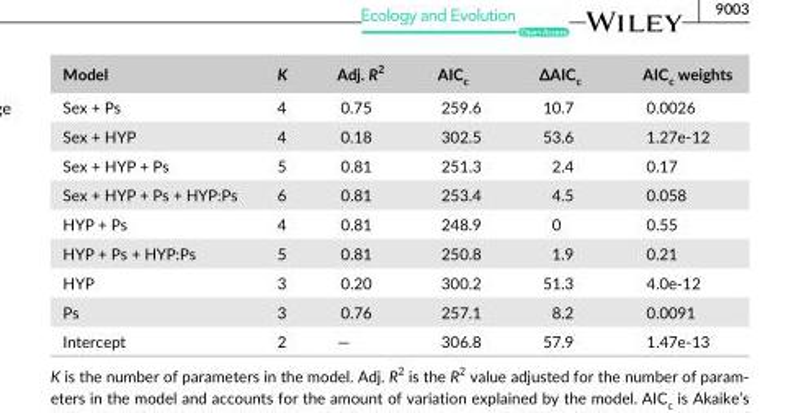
<table><thead><tr><td>Model</td><td>K</td><td>Adj. R<sup>2</sup></td><td>AIC<sub>c</sub></td><td>∆AIC<sub>c</sub></td><td>AIC<sub>c</sub> weights</td></tr></thead><tbody><tr><td>Sex + Ps</td><td>4</td><td>0.75</td><td>259.6</td><td>10.7</td><td>0.0026</td></tr><tr><td>Sex + HYP</td><td>4</td><td>0.18</td><td>302.5</td><td>53.6</td><td>1.27e- 12</td></tr><tr><td>Sex + HYP + Ps</td><td>5</td><td>0.81</td><td>251.3</td><td>2.4</td><td>0.17</td></tr><tr><td>Sex + HYP + Ps + HYP:Ps</td><td>6</td><td>0.81</td><td>253.4</td><td>4.5</td><td>0.058</td></tr><tr><td>HYP + Ps</td><td>4</td><td>0.81</td><td>248.9</td><td>0</td><td>0.55</td></tr><tr><td>HYP + Ps + HYP:Ps</td><td>5</td><td>0.81</td><td>250.8</td><td>1.9</td><td>0.21</td></tr><tr><td>HYP</td><td>3</td><td>0.20</td><td>300.2</td><td>51.3</td><td>4.0e- 12</td></tr><tr><td>Ps</td><td>3</td><td>0.76</td><td>257.1</td><td>8.2</td><td>0.0091</td></tr><tr><td>Intercept</td><td>2</td><td>—</td><td>306.8</td><td>57.9</td><td>1.47e- 13</td></tr></tbody></table>